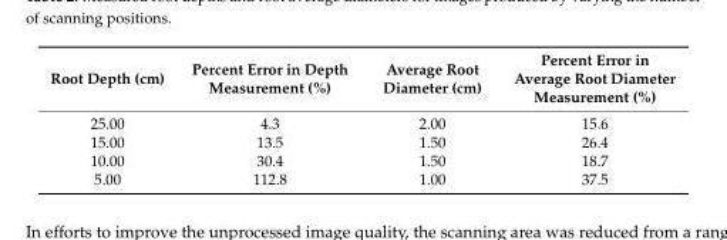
<table><thead><tr><td>Root Depth (cm)</td><td>Percent Error in Depth Measurement (%)</td><td>Average Root Diameter (cm)</td><td>Percent Error in Average Root Diameter Measurement (%)</td></tr></thead><tbody><tr><td>25.00</td><td>4.3</td><td>2.00</td><td>15.6</td></tr><tr><td>15.00</td><td>13.5</td><td>1.50</td><td>26.4</td></tr><tr><td>10.00</td><td>30.4</td><td>1.50</td><td>18.7</td></tr><tr><td>5.00</td><td>112.8</td><td>1.00</td><td>37.5</td></tr></tbody></table>